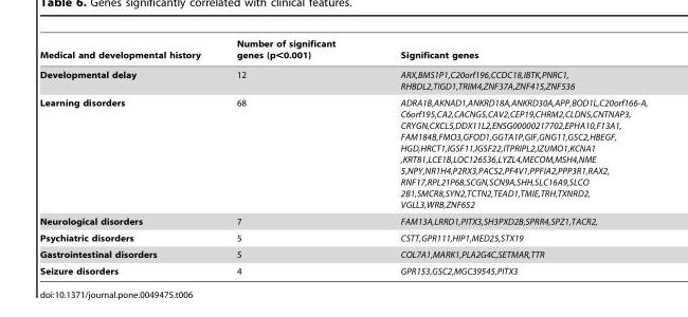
<table><thead><tr><td>Medical and developmental history</td><td>Number of significant genes (p&lt;0.001)</td><td>Significant genes</td></tr></thead><tbody><tr><td>Developmental delay</td><td>12</td><td>ARX,BMS1P1,C20orf196,CCDC18,IBTK,PNRC1, RHBDL2,TIGD1,TRIM4,ZNF37A,ZNF415,ZNF536</td></tr><tr><td>Learning disorders</td><td>68</td><td>ADRA1B,AKNAD1,ANKRD18A,ANKRD30A,APP,BOD1L,C20orf166-A, C6orf195,CA2,CACNG5,CAV2,CEP19,CHRM2,CLDN5,CNTNAP3, CRYGN,CXCL5,DDX11L2,ENSG00000217702,EPHA10,F13A1, FAM184B,FMO3,GFOD1,GGTA1P,GIF,GNG11,GSC2,HBEGF, HGD,HRCT1,IGSF11,IGSF22,ITPRIPL2,IZUMO1,KCNA1 ,KRT81,LCE1B,LOC126536,LYZL4,MECOM,MSH4,NME 5,NPY,NR1H4,P2RX3,PACS2,PF4V1,PPFIA2,PPP3R1,RAX2, RNF17,RPL21P68,SCGN,SCN9A,SHH,SLC16A9,SLCO 2B1,SMCR8,SYN2,TCTN2,TEAD1,TMIE,TRH,TXNRD2, VGLL3,WRB,ZNF652</td></tr><tr><td>Neurological disorders</td><td>7</td><td>FAM13A,LRRD1,PITX3,SH3PXD2B,SPRR4,SPZ1,TACR2,</td></tr><tr><td>Psychiatric disorders</td><td>5</td><td>CSTT,GPR111,HIP1,MED25,STX19</td></tr><tr><td>Gastrointestinal disorders</td><td>5</td><td>COL7A1,MARK1,PLA2G4C,SETMAR,TTR</td></tr><tr><td>Seizure disorders</td><td>4</td><td>GPR153,GSC2,MGC39545,PITX3</td></tr></tbody></table>